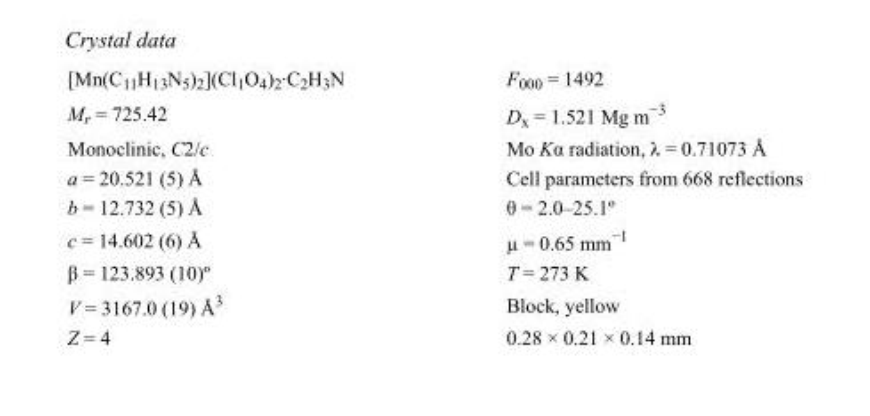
<table><tbody><tr><td>[Mn(C11H13N5)2](Cl1O4)2·C2H3N</td><td>F000 = 1492</td></tr><tr><td>M<sub>r</sub> = 725.42</td><td>D<sub>x</sub> = 1.521 Mg m<sup>−3</sup></td></tr><tr><td>Monoclinic, C2/c</td><td>Mo Kα radiation, λ = 0.71073 Å</td></tr><tr><td>a = 20.521 (5) Å</td><td>Cell parameters from 668 reflections</td></tr><tr><td>b = 12.732 (5) Å</td><td>θ = 2.0–25.1º</td></tr><tr><td>c = 14.602 (6) Å</td><td>µ = 0.65 mm<sup>−1</sup></td></tr><tr><td>β = 123.893 (10)º</td><td>T = 273 K</td></tr><tr><td>V = 3167.0 (19) Å<sup>3</sup></td><td>Block, yellow</td></tr><tr><td>Z = 4</td><td>0.28 × 0.21 × 0.14 mm</td></tr></tbody></table>